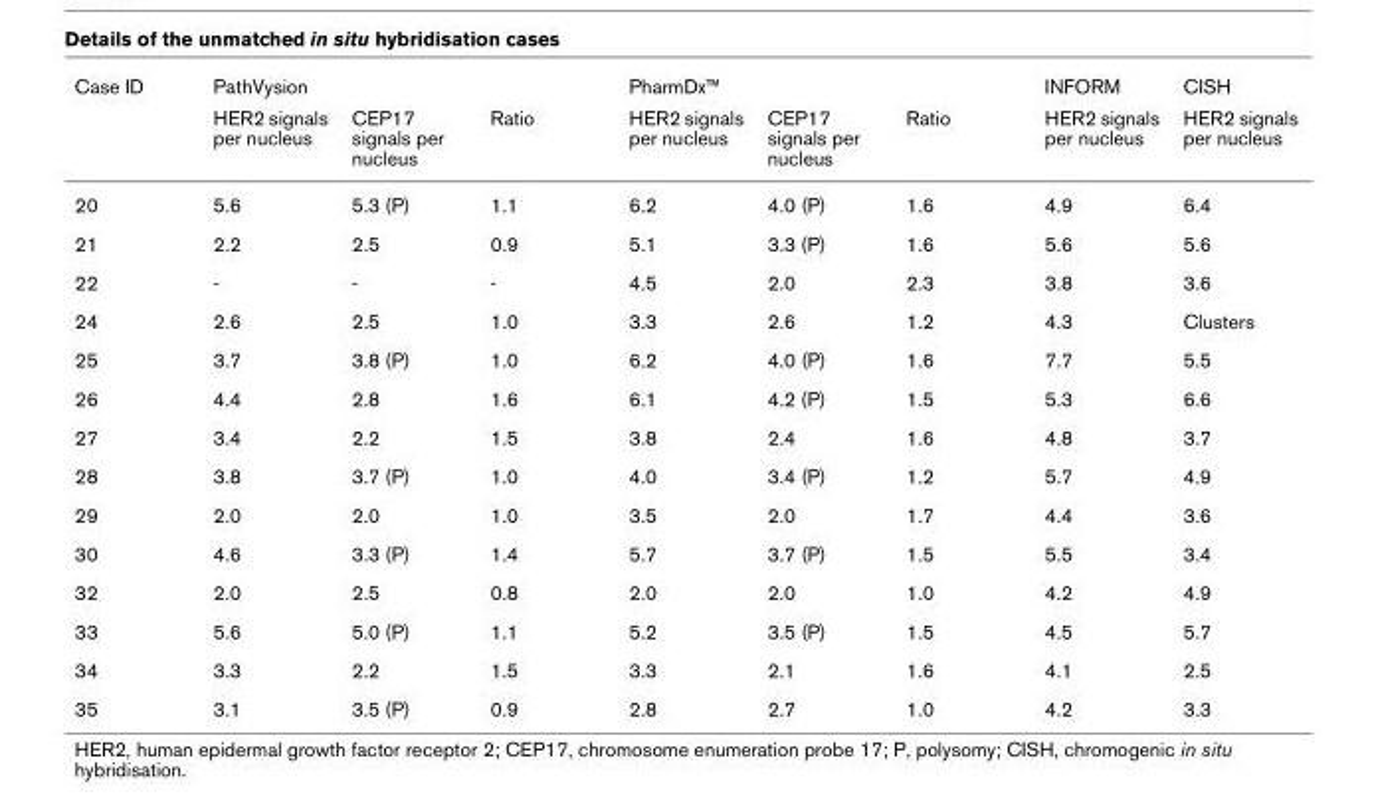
<table><thead><tr><td rowspan="2">Case ID</td><td colspan="3">PathVysion</td><td colspan="3">PharmDx™</td><td rowspan="2">INFORM HER2 signals per nucleus</td><td rowspan="2">CISH HER2 signals per nucleus</td></tr><tr><td>HER2 signals per nucleus</td><td>CEP17 signals per nucleus</td><td>Ratio</td><td>HER2 signals per nucleus</td><td>CEP17 signals per nucleus</td><td>Ratio</td></tr></thead><tbody><tr><td>20</td><td>5.6</td><td>5.3 (P)</td><td>1.1</td><td>6.2</td><td>4.0 (P)</td><td>1.6</td><td>4.9</td><td>6.4</td></tr><tr><td>21</td><td>2.2</td><td>2.5</td><td>0.9</td><td>5.1</td><td>3.3 (P)</td><td>1.6</td><td>5.6</td><td>5.6</td></tr><tr><td>22</td><td>-</td><td>-</td><td>-</td><td>4.5</td><td>2.0</td><td>2.3</td><td>3.8</td><td>3.6</td></tr><tr><td>24</td><td>2.6</td><td>2.5</td><td>1.0</td><td>3.3</td><td>2.6</td><td>1.2</td><td>4.3</td><td>Clusters</td></tr><tr><td>25</td><td>3.7</td><td>3.8 (P)</td><td>1.0</td><td>6.2</td><td>4.0 (P)</td><td>1.6</td><td>7.7</td><td>5.5</td></tr><tr><td>26</td><td>4.4</td><td>2.8</td><td>1.6</td><td>6.1</td><td>4.2 (P)</td><td>1.5</td><td>5.3</td><td>6.6</td></tr><tr><td>27</td><td>3.4</td><td>2.2</td><td>1.5</td><td>3.8</td><td>2.4</td><td>1.6</td><td>4.8</td><td>3.7</td></tr><tr><td>28</td><td>3.8</td><td>3.7 (P)</td><td>1.0</td><td>4.0</td><td>3.4 (P)</td><td>1.2</td><td>5.7</td><td>4.9</td></tr><tr><td>29</td><td>2.0</td><td>2.0</td><td>1.0</td><td>3.5</td><td>2.0</td><td>1.7</td><td>4.4</td><td>3.6</td></tr><tr><td>30</td><td>4.6</td><td>3.3 (P)</td><td>1.4</td><td>5.7</td><td>3.7 (P)</td><td>1.5</td><td>5.5</td><td>3.4</td></tr><tr><td>32</td><td>2.0</td><td>2.5</td><td>0.8</td><td>2.0</td><td>2.0</td><td>1.0</td><td>4.2</td><td>4.9</td></tr><tr><td>33</td><td>5.6</td><td>5.0 (P)</td><td>1.1</td><td>5.2</td><td>3.5 (P)</td><td>1.5</td><td>4.5</td><td>5.7</td></tr><tr><td>34</td><td>3.3</td><td>2.2</td><td>1.5</td><td>3.3</td><td>2.1</td><td>1.6</td><td>4.1</td><td>2.5</td></tr><tr><td>35</td><td>3.1</td><td>3.5 (P)</td><td>0.9</td><td>2.8</td><td>2.7</td><td>1.0</td><td>4.2</td><td>3.3</td></tr></tbody></table>